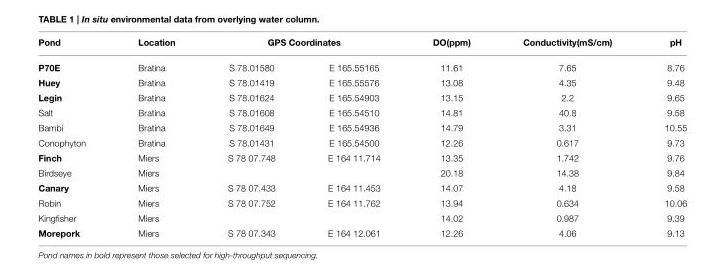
<table><thead><tr><td rowspan="2">Pond P70E</td><td rowspan="2">Location Bratina</td><td colspan="2">GPS Coordinates</td><td rowspan="2">DO(ppm) 11.61</td><td rowspan="2">Conductivity(mS/cm) 7.65</td><td rowspan="2">pH 8.76</td></tr><tr><td>S 78.01580</td><td>E 165.55165</td></tr></thead><tbody><tr><td>Huey</td><td>Bratina</td><td>S 78.01419</td><td>E 165.55576</td><td>13.08</td><td>4.35</td><td>9.48</td></tr><tr><td>Legin</td><td>Bratina</td><td>S 78.01624</td><td>E 165.54903</td><td>13.15</td><td>2.2</td><td>9.65</td></tr><tr><td>Salt</td><td>Bratina</td><td>S 78.01608</td><td>E 165.54510</td><td>14.81</td><td>40.8</td><td>9.58</td></tr><tr><td>Bambi</td><td>Bratina</td><td>S 78.01649</td><td>E 165.54936</td><td>14.79</td><td>3.31</td><td>10.55</td></tr><tr><td>Conophyton</td><td>Bratina</td><td>S 78.01431</td><td>E 165.54500</td><td>12.26</td><td>0.617</td><td>9.73</td></tr><tr><td>Finch</td><td>Miers</td><td>S 78 07.748</td><td>E 164 11.714</td><td>13.35</td><td>1.742</td><td>9.76</td></tr><tr><td>Birdseye</td><td>Miers</td><td></td><td></td><td>20.18</td><td>14.38</td><td>9.84</td></tr><tr><td>Canary</td><td>Miers</td><td>S 78 07.433</td><td>E 164 11.453</td><td>14.07</td><td>4.18</td><td>9.58</td></tr><tr><td>Robin</td><td>Miers</td><td>S 78 07.752</td><td>E 164 11.762</td><td>13.94</td><td>0.634</td><td>10.06</td></tr><tr><td>Kingfisher</td><td>Miers</td><td></td><td></td><td>14.02</td><td>0.987</td><td>9.39</td></tr><tr><td>Morepork</td><td>Miers</td><td>S 78 07.343</td><td>E 164 12.061</td><td>12.26</td><td>4.06</td><td>9.13</td></tr></tbody></table>